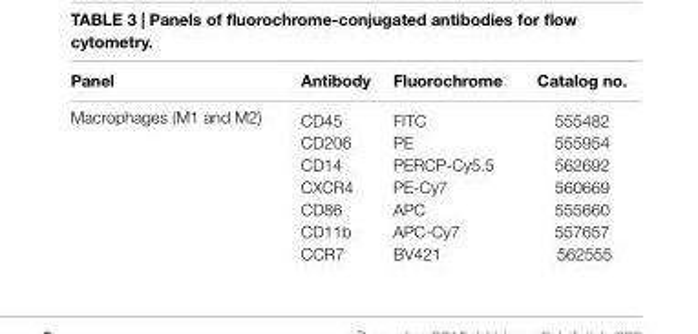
<table><thead><tr><td>Panel</td><td>antibody</td><td>Fluorochrome</td><td>catalog no.</td></tr></thead><tbody><tr><td rowspan="7">Macrophages (M1 and M2)</td><td>CD45</td><td>FITC</td><td>555482</td></tr><tr><td>CD206</td><td>PE</td><td>555954</td></tr><tr><td>CD14</td><td>PERCP-Cy5.5</td><td>562692</td></tr><tr><td>CXCR4</td><td>PE-Cy7</td><td>560669</td></tr><tr><td>CD86</td><td>APC</td><td>555660</td></tr><tr><td>CD11b</td><td>APC-Cy7</td><td>557657</td></tr><tr><td>CCR7</td><td>BV421</td><td>562555</td></tr></tbody></table>